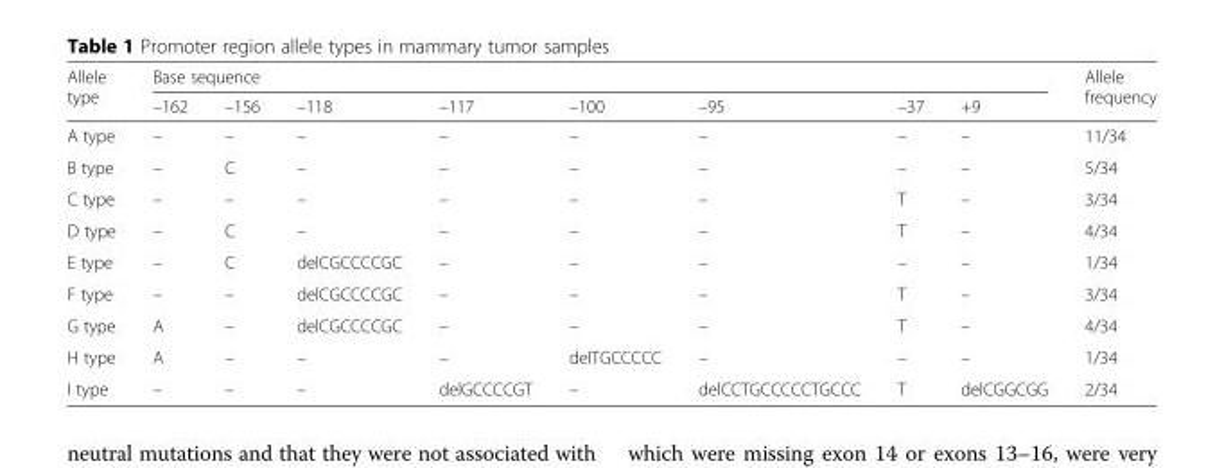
<table><thead><tr><td rowspan="2">Allele type</td><td colspan="8">Base sequence</td><td rowspan="2">Allele frequency</td></tr><tr><td>–162</td><td>–156</td><td>–118</td><td>–117</td><td>–100</td><td>–95</td><td>–37</td><td>+9</td></tr></thead><tbody><tr><td>A type</td><td>–</td><td>–</td><td>–</td><td>–</td><td>–</td><td>–</td><td>–</td><td>–</td><td>11/34</td></tr><tr><td>B type</td><td>–</td><td>C</td><td>–</td><td>–</td><td>–</td><td>–</td><td>–</td><td>–</td><td>5/34</td></tr><tr><td>C type</td><td>–</td><td>–</td><td>–</td><td>–</td><td>–</td><td>–</td><td>T</td><td>–</td><td>3/34</td></tr><tr><td>D type</td><td>–</td><td>C</td><td>–</td><td>–</td><td>–</td><td>–</td><td>T</td><td>–</td><td>4/34</td></tr><tr><td>E type</td><td>–</td><td>C</td><td>delCGCCCCGC</td><td>–</td><td>–</td><td>–</td><td>–</td><td>–</td><td>1/34</td></tr><tr><td>F type</td><td>–</td><td>–</td><td>delCGCCCCGC</td><td>–</td><td>–</td><td>–</td><td>T</td><td>–</td><td>3/34</td></tr><tr><td>G type</td><td>A</td><td>–</td><td>delCGCCCCGC</td><td>–</td><td>–</td><td>–</td><td>T</td><td>–</td><td>4/34</td></tr><tr><td>H type</td><td>A</td><td>–</td><td>–</td><td>–</td><td>delTGCCCCC</td><td>–</td><td>–</td><td>–</td><td>1/34</td></tr><tr><td>I type</td><td>–</td><td>–</td><td>–</td><td>delGCCCCGT</td><td>–</td><td>delCCTGCCCCCTGCCC</td><td>T</td><td>delCGGCGG</td><td>2/34</td></tr></tbody></table>